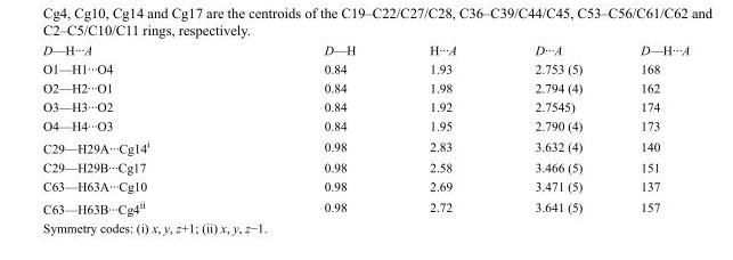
<table><tbody><tr><td>D—H···A</td><td>D—H</td><td>H···A</td><td>D···A</td><td>D—H···A</td></tr><tr><td>O1—H1···O4</td><td>0.84</td><td>1.93</td><td>2.753 (5)</td><td>168</td></tr><tr><td>O2—H2···O1</td><td>0.84</td><td>1.98</td><td>2.794 (4)</td><td>162</td></tr><tr><td>O3—H3···O2</td><td>0.84</td><td>1.92</td><td>2.7545)</td><td>174</td></tr><tr><td>O4—H4···O3</td><td>0.84</td><td>1.95</td><td>2.790 (4)</td><td>173</td></tr><tr><td>C29—H29A···Cg14<sup>i</sup></td><td>0.98</td><td>2.83</td><td>3.632 (4)</td><td>140</td></tr><tr><td>C29—H29B···Cg17</td><td>0.98</td><td>2.58</td><td>3.466 (5)</td><td>151</td></tr><tr><td>C63—H63A···Cg10</td><td>0.98</td><td>2.69</td><td>3.471 (5)</td><td>137</td></tr><tr><td>C63—H63B···Cg4<sup>ii</sup></td><td>0.98</td><td>2.72</td><td>3.641 (5)</td><td>157</td></tr></tbody></table>